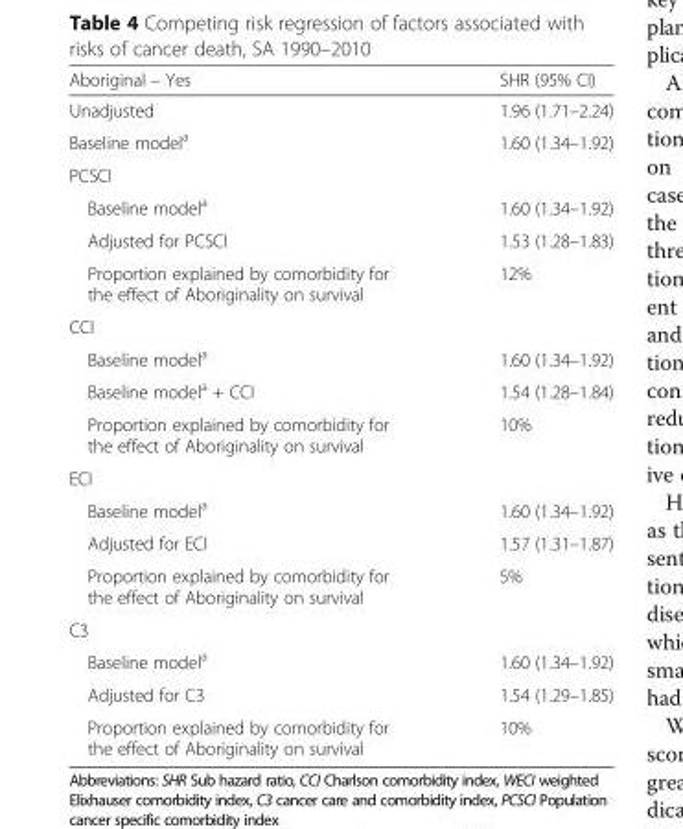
<table><thead><tr><td>Aboriginal – Yes</td><td>SHR (95% CI)</td></tr></thead><tbody><tr><td>Unadjusted</td><td>1.96 (1.71–2.24)</td></tr><tr><td>Baseline model<sup>a</sup></td><td>1.60 (1.34–1.92)</td></tr><tr><td colspan="2">PCSCI</td></tr><tr><td>Baseline model<sup>a</sup></td><td>1.60 (1.34–1.92)</td></tr><tr><td>Adjusted for PCSCI</td><td>1.53 (1.28–1.83)</td></tr><tr><td>Proportion explained by comorbidity for the effect of Aboriginality on survival</td><td>12%</td></tr><tr><td colspan="2">CCI</td></tr><tr><td>Baseline model<sup>a</sup></td><td>1.60 (1.34–1.92)</td></tr><tr><td>Baseline model<sup>a</sup> + CCI</td><td>1.54 (1.28–1.84)</td></tr><tr><td>Proportion explained by comorbidity for the effect of Aboriginality on survival</td><td>10%</td></tr><tr><td colspan="2">ECI</td></tr><tr><td>Baseline model<sup>a</sup></td><td>1.60 (1.34–1.92)</td></tr><tr><td>Adjusted for ECI</td><td>1.57 (1.31–1.87)</td></tr><tr><td>Proportion explained by comorbidity for the effect of Aboriginality on survival</td><td>5%</td></tr><tr><td colspan="2">C3</td></tr><tr><td>Baseline model<sup>a</sup></td><td>1.60 (1.34–1.92)</td></tr><tr><td>Adjusted for C3</td><td>1.54 (1.29–1.85)</td></tr><tr><td>Proportion explained by comorbidity for the effect of Aboriginality on survival</td><td>10%</td></tr></tbody></table>